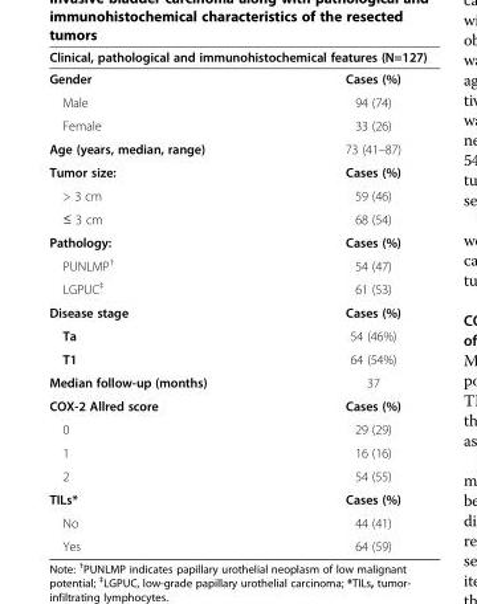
<table><thead><tr><td colspan="2">Clinical, pathological and immunohistochemical features (N=127)</td></tr><tr><td>Gender</td><td>Cases (%)</td></tr></thead><tbody><tr><td>Male</td><td>94 (74)</td></tr><tr><td>Female</td><td>33 (26)</td></tr><tr><td>Age (years, median, range)</td><td>73 (41–87)</td></tr><tr><td>Tumor size:</td><td>Cases (%)</td></tr><tr><td>&gt; 3 cm</td><td>59 (46)</td></tr><tr><td>≤ 3 cm</td><td>68 (54)</td></tr><tr><td>Pathology:</td><td>Cases (%)</td></tr><tr><td>PUNLMP<sup>†</sup></td><td>54 (47)</td></tr><tr><td>LGPUC<sup>‡</sup></td><td>61 (53)</td></tr><tr><td>Disease stage</td><td>Cases (%)</td></tr><tr><td>Ta</td><td>54 (46%)</td></tr><tr><td>T1</td><td>64 (54%)</td></tr><tr><td>Median follow-up (months)</td><td>37</td></tr><tr><td>COX-2 Allred score</td><td>Cases (%)</td></tr><tr><td>0</td><td>29 (29)</td></tr><tr><td>1</td><td>16 (16)</td></tr><tr><td>2</td><td>54 (55)</td></tr><tr><td>TILs*</td><td>Cases (%)</td></tr><tr><td>No</td><td>44 (41)</td></tr><tr><td>Yes</td><td>64 (59)</td></tr></tbody></table>